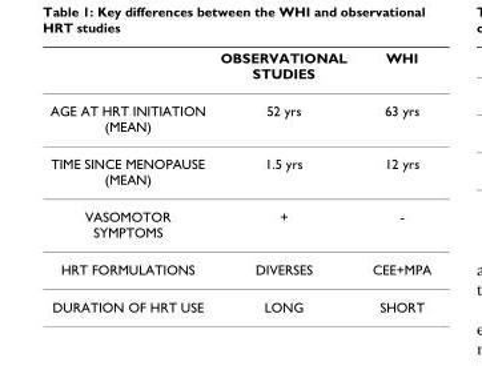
<table><thead><tr><td></td><td>OBSERVATIONAL STUDIES</td><td>WHI</td></tr></thead><tbody><tr><td>AGE AT HRT INITIATION (MEAN)</td><td>52 yrs</td><td>63 yrs</td></tr><tr><td>TIME SINCE MENOPAUSE (MEAN)</td><td>1.5 yrs</td><td>12 yrs</td></tr><tr><td>VASOMOTOR SYMPTOMS</td><td>+</td><td>-</td></tr><tr><td>HRT FORMULATIONS</td><td>DIVERSES</td><td>CEE+MPA</td></tr><tr><td>DURATION OF HRT USE</td><td>LONG</td><td>SHORT</td></tr></tbody></table>